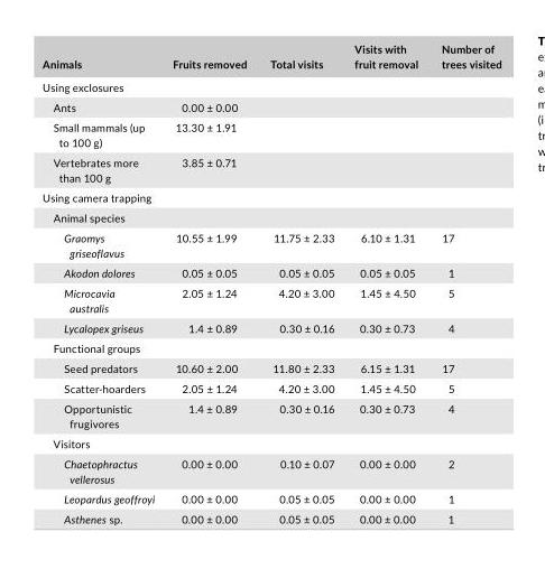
<table><thead><tr><td>Animals</td><td>Fruits removed</td><td>Total visits</td><td>Visits with fruit removal</td><td>Number of trees visited</td></tr></thead><tbody><tr><td colspan="5">Using exclosures</td></tr><tr><td>Ants</td><td>0.00 ± 0.00</td><td></td><td></td><td></td></tr><tr><td>Small mammals (up to 100 g)</td><td>13.30 ± 1.91</td><td></td><td></td><td></td></tr><tr><td>Vertebrates more than 100 g</td><td>3.85 ± 0.71</td><td></td><td></td><td></td></tr><tr><td colspan="5">Using camera trapping</td></tr><tr><td colspan="5">Animal species</td></tr><tr><td>Graomys griseoflavus</td><td>10.55 ± 1.99</td><td>11.75 ± 2.33</td><td>6.10 ± 1.31</td><td>17</td></tr><tr><td>Akodon dolores</td><td>0.05 ± 0.05</td><td>0.05 ± 0.05</td><td>0.05 ± 0.05</td><td>1</td></tr><tr><td>Microcavia australis</td><td>2.05 ± 1.24</td><td>4.20 ± 3.00</td><td>1.45 ± 4.50</td><td>5</td></tr><tr><td>Lycalopex griseus</td><td>1.4 ± 0.89</td><td>0.30 ± 0.16</td><td>0.30 ± 0.73</td><td>4</td></tr><tr><td colspan="5">Functional groups</td></tr><tr><td>Seed predators</td><td>10.60 ± 2.00</td><td>11.80 ± 2.33</td><td>6.15 ± 1.31</td><td>17</td></tr><tr><td>Scatter- hoarders</td><td>2.05 ± 1.24</td><td>4.20 ± 3.00</td><td>1.45 ± 4.50</td><td>5</td></tr><tr><td>Opportunistic frugivores</td><td>1.4 ± 0.89</td><td>0.30 ± 0.16</td><td>0.30 ± 0.73</td><td>4</td></tr><tr><td colspan="5">Visitors</td></tr><tr><td>Chaetophractus vellerosus</td><td>0.00 ± 0.00</td><td>0.10 ± 0.07</td><td>0.00 ± 0.00</td><td>2</td></tr><tr><td>Leopardus geoffroyi</td><td>0.00 ± 0.00</td><td>0.05 ± 0.05</td><td>0.00 ± 0.00</td><td>1</td></tr><tr><td>Asthenes sp.</td><td>0.00 ± 0.00</td><td>0.05 ± 0.05</td><td>0.00 ± 0.00</td><td>1</td></tr></tbody></table>